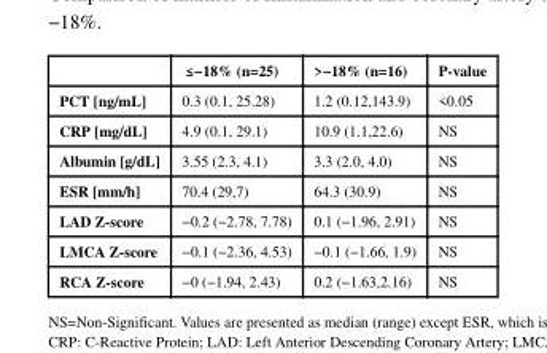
<table><thead><tr><td></td><td>≤ −18% (n=25)</td><td>&gt;−18% (n=16)</td><td>P-value</td></tr></thead><tbody><tr><td>PCT [ng/mL]</td><td>0.3 (0.1, 25.28)</td><td>1.2 (0.12,143.9)</td><td>&lt;0.05</td></tr><tr><td>CRP [mg/dL]</td><td>4.9 (0.1, 29.1)</td><td>10.9 (1.1,22.6)</td><td>NS</td></tr><tr><td>Albumin [g/dL]</td><td>3.55 (2.3, 4.1)</td><td>3.3 (2.0, 4.0)</td><td>NS</td></tr><tr><td>ESR [mm/h]</td><td>70.4 (29,7)</td><td>64.3 (30.9)</td><td>NS</td></tr><tr><td>LAD Z-score</td><td>−0.2 (−2.78, 7.78)</td><td>0.1 (−1.96, 2.91)</td><td>NS</td></tr><tr><td>LMCA Z-score</td><td>−0.1 (−2.36, 4.53)</td><td>−0.1 (−1.66, 1.9)</td><td>NS</td></tr><tr><td>RCA Z-score</td><td>−0 (−1.94, 2.43)</td><td>0.2 (−1.63,2.16)</td><td>NS</td></tr></tbody></table>